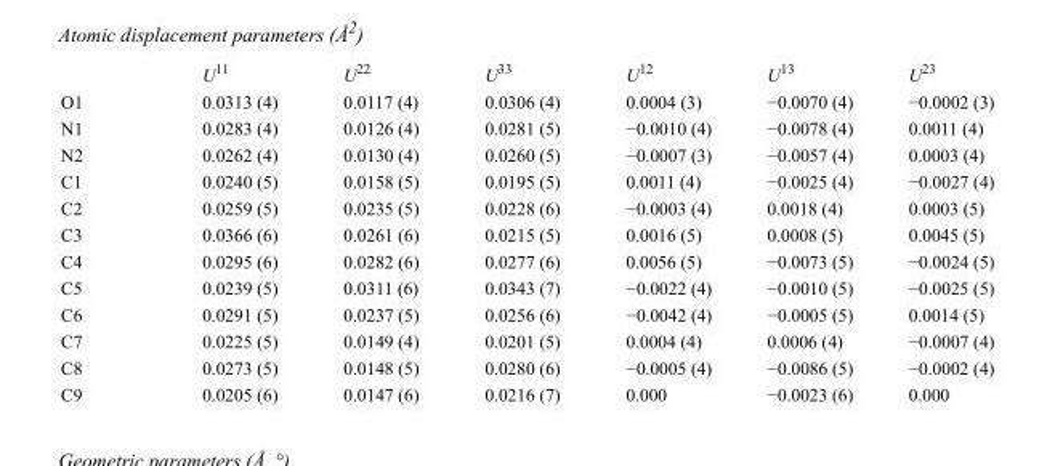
<table><thead><tr><td></td><td>U<sup>11</sup></td><td>U<sup>22</sup></td><td>U<sup>33</sup></td><td>U<sup>12</sup></td><td>U<sup>13</sup></td><td>U<sup>23</sup></td></tr></thead><tbody><tr><td>O1</td><td>0.0313 (4)</td><td>0.0117 (4)</td><td>0.0306 (4)</td><td>0.0004 (3)</td><td>−0.0070 (4)</td><td>−0.0002 (3)</td></tr><tr><td>N1</td><td>0.0283 (4)</td><td>0.0126 (4)</td><td>0.0281 (5)</td><td>−0.0010 (4)</td><td>−0.0078 (4)</td><td>0.0011 (4)</td></tr><tr><td>N2</td><td>0.0262 (4)</td><td>0.0130 (4)</td><td>0.0260 (5)</td><td>−0.0007 (3)</td><td>−0.0057 (4)</td><td>0.0003 (4)</td></tr><tr><td>C1</td><td>0.0240 (5)</td><td>0.0158 (5)</td><td>0.0195 (5)</td><td>0.0011 (4)</td><td>−0.0025 (4)</td><td>−0.0027 (4)</td></tr><tr><td>C2</td><td>0.0259 (5)</td><td>0.0235 (5)</td><td>0.0228 (6)</td><td>−0.0003 (4)</td><td>0.0018 (4)</td><td>0.0003 (5)</td></tr><tr><td>C3</td><td>0.0366 (6)</td><td>0.0261 (6)</td><td>0.0215 (5)</td><td>0.0016 (5)</td><td>0.0008 (5)</td><td>0.0045 (5)</td></tr><tr><td>C4</td><td>0.0295 (6)</td><td>0.0282 (6)</td><td>0.0277 (6)</td><td>0.0056 (5)</td><td>−0.0073 (5)</td><td>−0.0024 (5)</td></tr><tr><td>C5</td><td>0.0239 (5)</td><td>0.0311 (6)</td><td>0.0343 (7)</td><td>−0.0022 (4)</td><td>−0.0010 (5)</td><td>−0.0025 (5)</td></tr><tr><td>C6</td><td>0.0291 (5)</td><td>0.0237 (5)</td><td>0.0256 (6)</td><td>−0.0042 (4)</td><td>−0.0005 (5)</td><td>0.0014 (5)</td></tr><tr><td>C7</td><td>0.0225 (5)</td><td>0.0149 (4)</td><td>0.0201 (5)</td><td>0.0004 (4)</td><td>0.0006 (4)</td><td>−0.0007 (4)</td></tr><tr><td>C8</td><td>0.0273 (5)</td><td>0.0148 (5)</td><td>0.0280 (6)</td><td>−0.0005 (4)</td><td>−0.0086 (5)</td><td>−0.0002 (4)</td></tr><tr><td>C9</td><td>0.0205 (6)</td><td>0.0147 (6)</td><td>0.0216 (7)</td><td>0.000</td><td>−0.0023 (6)</td><td>0.000</td></tr></tbody></table>